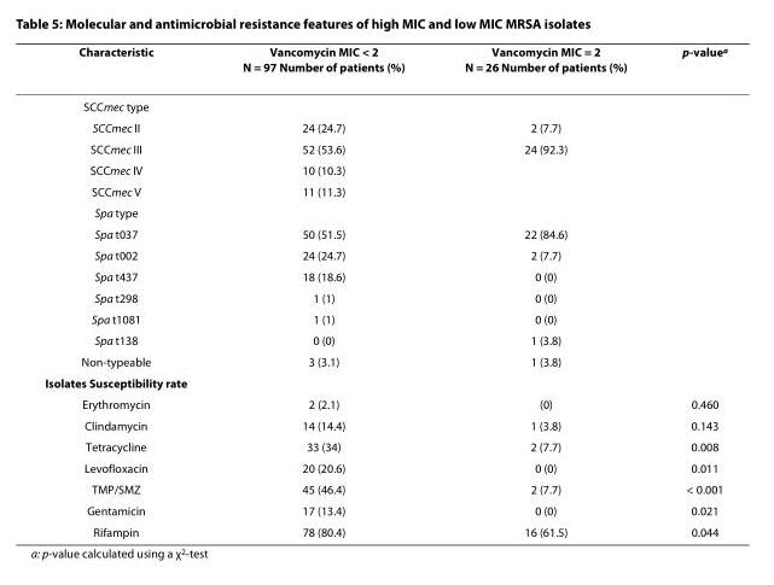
<table><thead><tr><td>Characteristic</td><td>Vancomycin MIC &lt; 2 N = 97 Number of patients (%)</td><td>Vancomycin MIC = 2 N = 26 Number of patients (%)</td><td>p-value<sup>a</sup></td></tr></thead><tbody><tr><td colspan="4">SCCmec type</td></tr><tr><td>SCCmec II</td><td>24 (24.7)</td><td>2 (7.7)</td><td></td></tr><tr><td>SCCmec III</td><td>52 (53.6)</td><td>24 (92.3)</td><td></td></tr><tr><td>SCCmec IV</td><td>10 (10.3)</td><td></td><td></td></tr><tr><td>SCCmec V</td><td>11 (11.3)</td><td></td><td></td></tr><tr><td colspan="4">Spa type</td></tr><tr><td>Spa t037</td><td>50 (51.5)</td><td>22 (84.6)</td><td></td></tr><tr><td>Spa t002</td><td>24 (24.7)</td><td>2 (7.7)</td><td></td></tr><tr><td>Spa t437</td><td>18 (18.6)</td><td>0 (0)</td><td></td></tr><tr><td>Spa t298</td><td>1 (1)</td><td>0 (0)</td><td></td></tr><tr><td>Spa t1081</td><td>1 (1)</td><td>0 (0)</td><td></td></tr><tr><td>Spa t138</td><td>0 (0)</td><td>1 (3.8)</td><td></td></tr><tr><td>Non-typeable</td><td>3 (3.1)</td><td>1 (3.8)</td><td></td></tr><tr><td colspan="4">Isolates Susceptibility rate</td></tr><tr><td>Erythromycin</td><td>2 (2.1)</td><td>(0)</td><td>0.460</td></tr><tr><td>Clindamycin</td><td>14 (14.4)</td><td>1 (3.8)</td><td>0.143</td></tr><tr><td>Tetracycline</td><td>33 (34)</td><td>2 (7.7)</td><td>0.008</td></tr><tr><td>Levofloxacin</td><td>20 (20.6)</td><td>0 (0)</td><td>0.011</td></tr><tr><td>TMP/SMZ</td><td>45 (46.4)</td><td>2 (7.7)</td><td>&lt; 0.001</td></tr><tr><td>Gentamicin</td><td>17 (13.4)</td><td>0 (0)</td><td>0.021</td></tr><tr><td>Rifampin</td><td>78 (80.4)</td><td>16 (61.5)</td><td>0.044</td></tr></tbody></table>